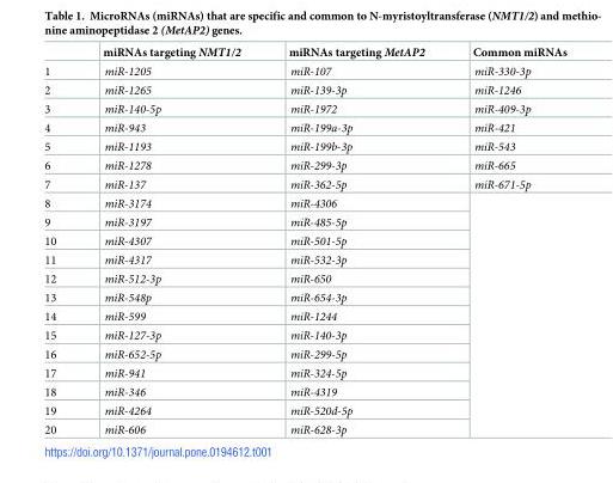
<table><thead><tr><td></td><td>miRNAs targeting NMT1/2</td><td>miRNAs targeting MetAP2</td><td>Common miRNAs</td></tr></thead><tbody><tr><td>1</td><td>miR-1205</td><td>miR-107</td><td>miR-330-3p</td></tr><tr><td>2</td><td>miR-1265</td><td>miR-139-3p</td><td>miR-1246</td></tr><tr><td>3</td><td>miR-140-5p</td><td>miR-1972</td><td>miR-409-3p</td></tr><tr><td>4</td><td>miR-943</td><td>miR-199a-3p</td><td>miR-421</td></tr><tr><td>5</td><td>miR-1193</td><td>miR-199b-3p</td><td>miR-543</td></tr><tr><td>6</td><td>miR-1278</td><td>miR-299-3p</td><td>miR-665</td></tr><tr><td>7</td><td>miR-137</td><td>miR-362-5p</td><td>miR-671-5p</td></tr><tr><td>8</td><td>miR-3174</td><td>miR-4306</td><td rowspan="13"></td></tr><tr><td>9</td><td>miR-3197</td><td>miR-485-5p</td></tr><tr><td>10</td><td>miR-4307</td><td>miR-501-5p</td></tr><tr><td>11</td><td>miR-4317</td><td>miR-532-3p</td></tr><tr><td>12</td><td>miR-512-3p</td><td>miR-650</td></tr><tr><td>13</td><td>miR-548p</td><td>miR-654-3p</td></tr><tr><td>14</td><td>miR-599</td><td>miR-1244</td></tr><tr><td>15</td><td>miR-127-3p</td><td>miR-140-3p</td></tr><tr><td>16</td><td>miR-652-5p</td><td>miR-299-5p</td></tr><tr><td>17</td><td>miR-941</td><td>miR-324-5p</td></tr><tr><td>18</td><td>miR-346</td><td>miR-4319</td></tr><tr><td>19</td><td>miR-4264</td><td>miR-520d-5p</td></tr><tr><td>20</td><td>miR-606</td><td>miR-628-3p</td></tr></tbody></table>